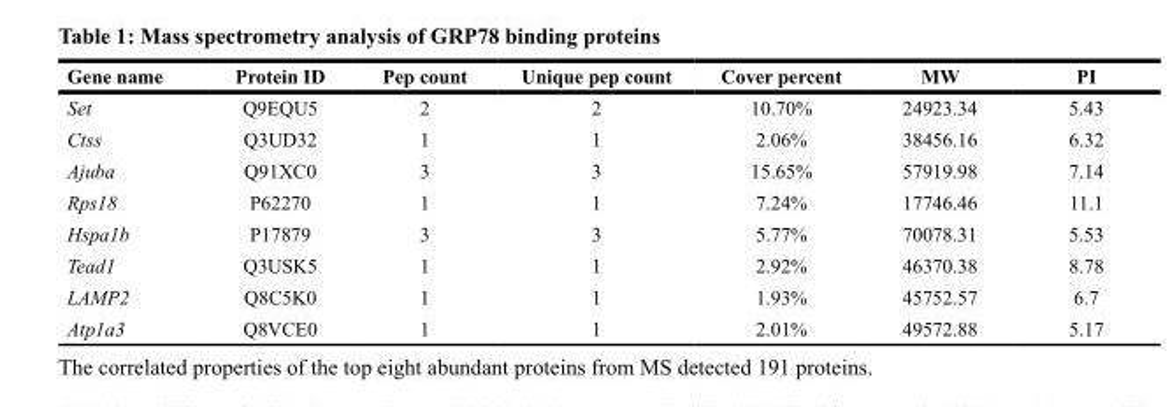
<table><thead><tr><td>Gene name</td><td>Protein ID</td><td>Pep count</td><td>Unique pep count</td><td>Cover percent</td><td>MW</td><td>PI</td></tr></thead><tbody><tr><td>Set</td><td>Q9EQU5</td><td>2</td><td>2</td><td>10.70%</td><td>24923.34</td><td>5.43</td></tr><tr><td>Ctss</td><td>Q3UD32</td><td>1</td><td>1</td><td>2.06%</td><td>38456.16</td><td>6.32</td></tr><tr><td>Ajuba</td><td>Q91XC0</td><td>3</td><td>3</td><td>15.65%</td><td>57919.98</td><td>7.14</td></tr><tr><td>Rps18</td><td>P62270</td><td>1</td><td>1</td><td>7.24%</td><td>17746.46</td><td>11.1</td></tr><tr><td>Hspa1b</td><td>P17879</td><td>3</td><td>3</td><td>5.77%</td><td>70078.31</td><td>5.53</td></tr><tr><td>Tead1</td><td>Q3USK5</td><td>1</td><td>1</td><td>2.92%</td><td>46370.38</td><td>8.78</td></tr><tr><td>LAMP2</td><td>Q8C5K0</td><td>1</td><td>1</td><td>1.93%</td><td>45752.57</td><td>6.7</td></tr><tr><td>Atp1a3</td><td>Q8VCE0</td><td>1</td><td>1</td><td>2.01%</td><td>49572.88</td><td>5.17</td></tr></tbody></table>